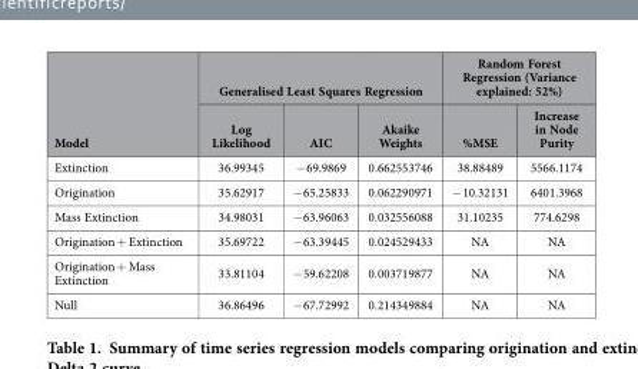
<table><thead><tr><td rowspan="2">Model</td><td colspan="3">Generalised Least Squares Regression</td><td colspan="2">Random Forest Regression (Variance explained: 52%)</td></tr><tr><td>Log Likelihood</td><td>AIC</td><td>Akaike Weights</td><td>%MSE</td><td>Increase in Node Purity</td></tr></thead><tbody><tr><td>Extinction</td><td>36.99345</td><td>− 69.9869</td><td>0.662553746</td><td>38.88489</td><td>5566.1174</td></tr><tr><td>Origination</td><td>35.62917</td><td>− 65.25833</td><td>0.062290971</td><td>− 10.32131</td><td>6401.3968</td></tr><tr><td>Mass Extinction</td><td>34.98031</td><td>− 63.96063</td><td>0.032556088</td><td>31.10235</td><td>774.6298</td></tr><tr><td>Origination + Extinction</td><td>35.69722</td><td>− 63.39445</td><td>0.024529433</td><td>NA</td><td>NA</td></tr><tr><td>Origination + Mass Extinction</td><td>33.81104</td><td>− 59.62208</td><td>0.003719877</td><td>NA</td><td>NA</td></tr><tr><td>Null</td><td>36.86496</td><td>− 67.72992</td><td>0.214349884</td><td>NA</td><td>NA</td></tr></tbody></table>